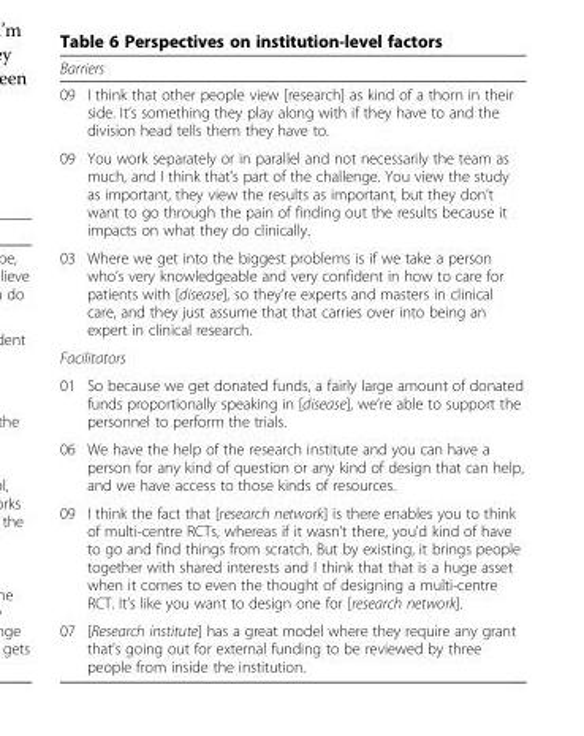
<table><thead><tr><td colspan="2">Barriers</td></tr><tr><td>09</td><td>I think that other people view [research] as kind of a thorn in their side. It’s something they play along with if they have to and the division head tells them they have to.</td></tr></thead><tbody><tr><td>09</td><td>You work separately or in parallel and not necessarily the team as much, and I think that’s part of the challenge. You view the study as important, they view the results as important, but they don’t want to go through the pain of finding out the results because it impacts on what they do clinically.</td></tr><tr><td>03</td><td>Where we get into the biggest problems is if we take a person who’s very knowledgeable and very confident in how to care for patients with [disease], so they’re experts and masters in clinical care, and they just assume that that carries over into being an expert in clinical research.</td></tr><tr><td colspan="2">Facilitators</td></tr><tr><td>01</td><td>So because we get donated funds, a fairly large amount of donated funds proportionally speaking in [disease], we’re able to support the personnel to perform the trials.</td></tr><tr><td>06</td><td>We have the help of the research institute and you can have a person for any kind of question or any kind of design that can help, and we have access to those kinds of resources.</td></tr><tr><td>09</td><td>I think the fact that [research network] is there enables you to think of multi-centre RCTs, whereas if it wasn’t there, you’d kind of have to go and find things from scratch. But by existing, it brings people together with shared interests and I think that that is a huge asset when it comes to even the thought of designing a multi-centre RCT. It’s like you want to design one for [research network].</td></tr><tr><td>07</td><td>[Research institute] has a great model where they require any grant that’s going out for external funding to be reviewed by three people from inside the institution.</td></tr></tbody></table>